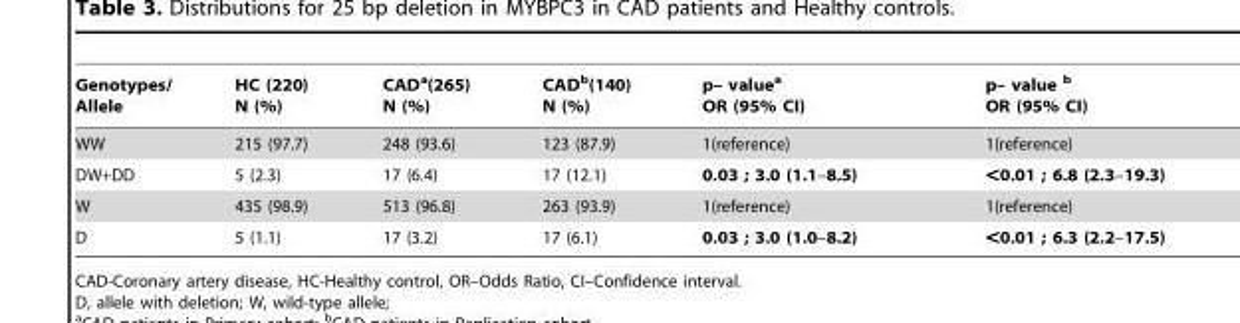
<table><thead><tr><td>Genotypes/ Allele</td><td>HC (220) N (%)</td><td>CAD<sup>a</sup>(265) N (%)</td><td>CAD<sup>b</sup>(140) N (%)</td><td>p– value<sup>a</sup> OR (95% CI)</td><td>p– value <sup>b</sup> OR (95% CI)</td></tr></thead><tbody><tr><td>WW</td><td>215 (97.7)</td><td>248 (93.6)</td><td>123 (87.9)</td><td>1(reference)</td><td>1(reference)</td></tr><tr><td>DW+DD</td><td>5 (2.3)</td><td>17 (6.4)</td><td>17 (12.1)</td><td>0.03 ; 3.0 (1.1–8.5)</td><td>&lt;0.01 ; 6.8 (2.3–19.3)</td></tr><tr><td>W</td><td>435 (98.9)</td><td>513 (96.8)</td><td>263 (93.9)</td><td>1(reference)</td><td>1(reference)</td></tr><tr><td>D</td><td>5 (1.1)</td><td>17 (3.2)</td><td>17 (6.1)</td><td>0.03 ; 3.0 (1.0–8.2)</td><td>&lt;0.01 ; 6.3 (2.2–17.5)</td></tr></tbody></table>